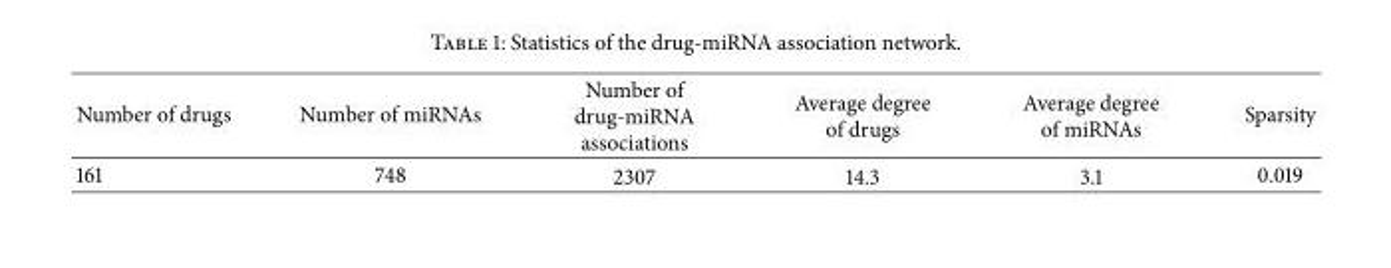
<table><tbody><tr><td>Number of drugs</td><td>Number of miRNAs</td><td>Number of drug-miRNA associations</td><td>Average degree of drugs</td><td>Average degree of miRNAs</td><td>Sparsity</td></tr><tr><td>161</td><td>748</td><td>2307</td><td>14.3</td><td>3.1</td><td>0.019</td></tr></tbody></table>